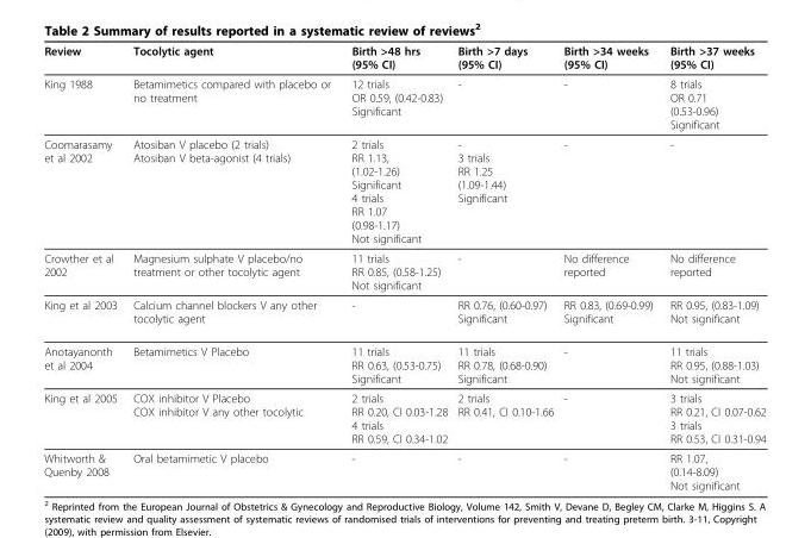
<table><thead><tr><td>Review</td><td>Tocolytic agent</td><td>Birth &gt;48 hrs (95% CI)</td><td>Birth &gt;7 days (95% CI)</td><td>Birth &gt;34 weeks (95% CI)</td><td>Birth &gt;37 weeks (95% CI)</td></tr></thead><tbody><tr><td>King 1988</td><td>Betamimetics compared with placebo or no treatment</td><td>12 trials OR 0.59, (0.42-0.83) Significant</td><td>-</td><td>-</td><td>8 trials OR 0.71 (0.53-0.96) Significant</td></tr><tr><td>Coomarasamy et al 2002</td><td>Atosiban V placebo (2 trials) Atosiban V beta-agonist (4 trials)</td><td>2 trials RR 1.13, (1.02-1.26) Significant 4 trials RR 1.07 (0.98-1.17) Not significant</td><td>- 3 trials RR 1.25 (1.09-1.44) Significant</td><td>-</td><td>-</td></tr><tr><td>Crowther et al 2002</td><td>Magnesium sulphate V placebo/no treatment or other tocolytic agent</td><td>11 trials RR 0.85, (0.58-1.25) Not significant</td><td>-</td><td>No difference reported</td><td>No difference reported</td></tr><tr><td>King et al 2003</td><td>Calcium channel blockers V any other tocolytic agent</td><td>-</td><td>RR 0.76, (0.60-0.97) Significant</td><td>RR 0.83, (0.69-0.99) Significant</td><td>RR 0.95, (0.83-1.09) Not significant</td></tr><tr><td>Anotayanonth et al 2004</td><td>Betamimetics V Placebo</td><td>11 trials RR 0.63, (0.53-0.75) Significant</td><td>11 trials RR 0.78, (0.68-0.90) Significant</td><td>-</td><td>11 trials RR 0.95, (0.88-1.03) Not significant</td></tr><tr><td>King et al 2005</td><td>COX inhibitor V Placebo COX inhibitor V any other tocolytic</td><td>2 trials RR 0.20, CI 0.03-1.28 4 trials RR 0.59, CI 0.34-1.02</td><td>2 trials RR 0.41, CI 0.10-1.66</td><td>-</td><td>3 trials RR 0.21, CI 0.07-0.62 3 trials RR 0.53, CI 0.31-0.94</td></tr><tr><td>Whitworth &amp; Quenby 2008</td><td>Oral betamimetic V placebo</td><td>-</td><td>-</td><td>-</td><td>RR 1.07, (0.14-8.09) Not significant</td></tr></tbody></table>